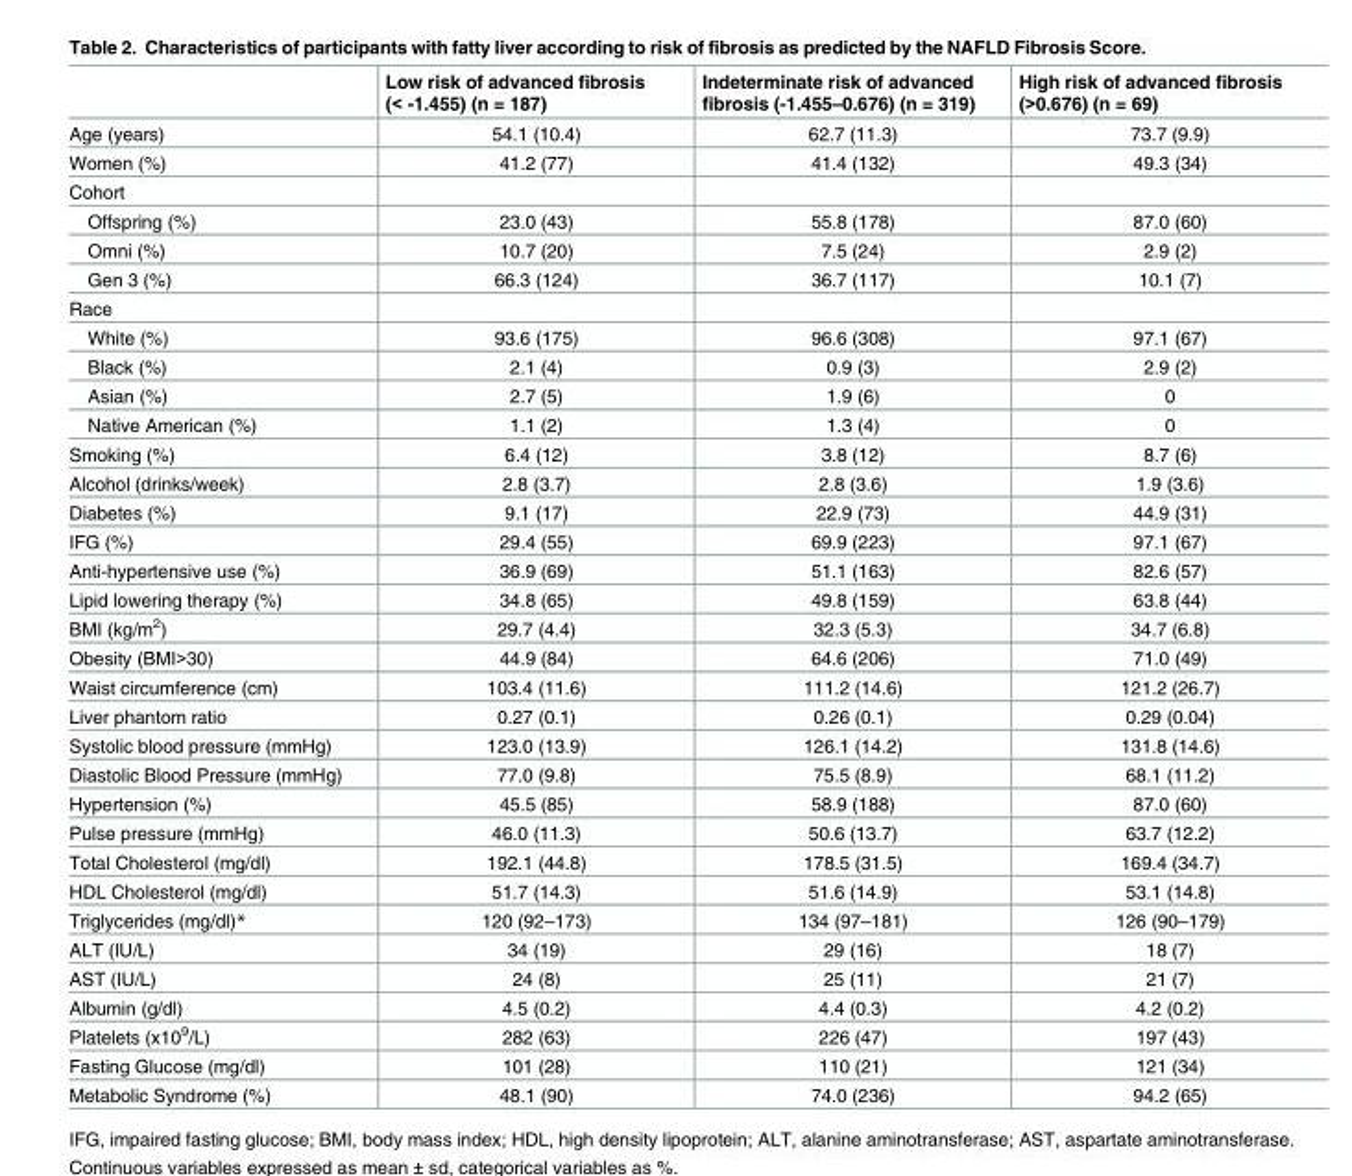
<table><thead><tr><td></td><td>Low risk of advanced fibrosis (&lt; -1.455) (n = 187)</td><td>Indeterminate risk of advanced fibrosis (-1.455–0.676) (n = 319)</td><td>High risk of advanced fibrosis (&gt;0.676) (n = 69)</td></tr></thead><tbody><tr><td>Age (years)</td><td>54.1 (10.4)</td><td>62.7 (11.3)</td><td>73.7 (9.9)</td></tr><tr><td>Women (%)</td><td>41.2 (77)</td><td>41.4 (132)</td><td>49.3 (34)</td></tr><tr><td colspan="4">Cohort</td></tr><tr><td>Offspring (%)</td><td>23.0 (43)</td><td>55.8 (178)</td><td>87.0 (60)</td></tr><tr><td>Omni (%)</td><td>10.7 (20)</td><td>7.5 (24)</td><td>2.9 (2)</td></tr><tr><td>Gen 3 (%)</td><td>66.3 (124)</td><td>36.7 (117)</td><td>10.1 (7)</td></tr><tr><td colspan="4">Race</td></tr><tr><td>White (%)</td><td>93.6 (175)</td><td>96.6 (308)</td><td>97.1 (67)</td></tr><tr><td>Black (%)</td><td>2.1 (4)</td><td>0.9 (3)</td><td>2.9 (2)</td></tr><tr><td>Asian (%)</td><td>2.7 (5)</td><td>1.9 (6)</td><td>0</td></tr><tr><td>Native American (%)</td><td>1.1 (2)</td><td>1.3 (4)</td><td>0</td></tr><tr><td>Smoking (%)</td><td>6.4 (12)</td><td>3.8 (12)</td><td>8.7 (6)</td></tr><tr><td>Alcohol (drinks/week)</td><td>2.8 (3.7)</td><td>2.8 (3.6)</td><td>1.9 (3.6)</td></tr><tr><td>Diabetes (%)</td><td>9.1 (17)</td><td>22.9 (73)</td><td>44.9 (31)</td></tr><tr><td>IFG (%)</td><td>29.4 (55)</td><td>69.9 (223)</td><td>97.1 (67)</td></tr><tr><td>Anti-hypertensive use (%)</td><td>36.9 (69)</td><td>51.1 (163)</td><td>82.6 (57)</td></tr><tr><td>Lipid lowering therapy (%)</td><td>34.8 (65)</td><td>49.8 (159)</td><td>63.8 (44)</td></tr><tr><td>BMI (kg/m<sup>2</sup>)</td><td>29.7 (4.4)</td><td>32.3 (5.3)</td><td>34.7 (6.8)</td></tr><tr><td>Obesity (BMI&gt;30)</td><td>44.9 (84)</td><td>64.6 (206)</td><td>71.0 (49)</td></tr><tr><td>Waist circumference (cm)</td><td>103.4 (11.6)</td><td>111.2 (14.6)</td><td>121.2 (26.7)</td></tr><tr><td>Liver phantom ratio</td><td>0.27 (0.1)</td><td>0.26 (0.1)</td><td>0.29 (0.04)</td></tr><tr><td>Systolic blood pressure (mmHg)</td><td>123.0 (13.9)</td><td>126.1 (14.2)</td><td>131.8 (14.6)</td></tr><tr><td>Diastolic Blood Pressure (mmHg)</td><td>77.0 (9.8)</td><td>75.5 (8.9)</td><td>68.1 (11.2)</td></tr><tr><td>Hypertension (%)</td><td>45.5 (85)</td><td>58.9 (188)</td><td>87.0 (60)</td></tr><tr><td>Pulse pressure (mmHg)</td><td>46.0 (11.3)</td><td>50.6 (13.7)</td><td>63.7 (12.2)</td></tr><tr><td>Total Cholesterol (mg/dl)</td><td>192.1 (44.8)</td><td>178.5 (31.5)</td><td>169.4 (34.7)</td></tr><tr><td>HDL Cholesterol (mg/dl)</td><td>51.7 (14.3)</td><td>51.6 (14.9)</td><td>53.1 (14.8)</td></tr><tr><td>Triglycerides (mg/dl)*</td><td>120 (92–173)</td><td>134 (97–181)</td><td>126 (90–179)</td></tr><tr><td>ALT (IU/L)</td><td>34 (19)</td><td>29 (16)</td><td>18 (7)</td></tr><tr><td>AST (IU/L)</td><td>24 (8)</td><td>25 (11)</td><td>21 (7)</td></tr><tr><td>Albumin (g/dl)</td><td>4.5 (0.2)</td><td>4.4 (0.3)</td><td>4.2 (0.2)</td></tr><tr><td>Platelets (x10<sup>9</sup>/L)</td><td>282 (63)</td><td>226 (47)</td><td>197 (43)</td></tr><tr><td>Fasting Glucose (mg/dl)</td><td>101 (28)</td><td>110 (21)</td><td>121 (34)</td></tr><tr><td>Metabolic Syndrome (%)</td><td>48.1 (90)</td><td>74.0 (236)</td><td>94.2 (65)</td></tr></tbody></table>